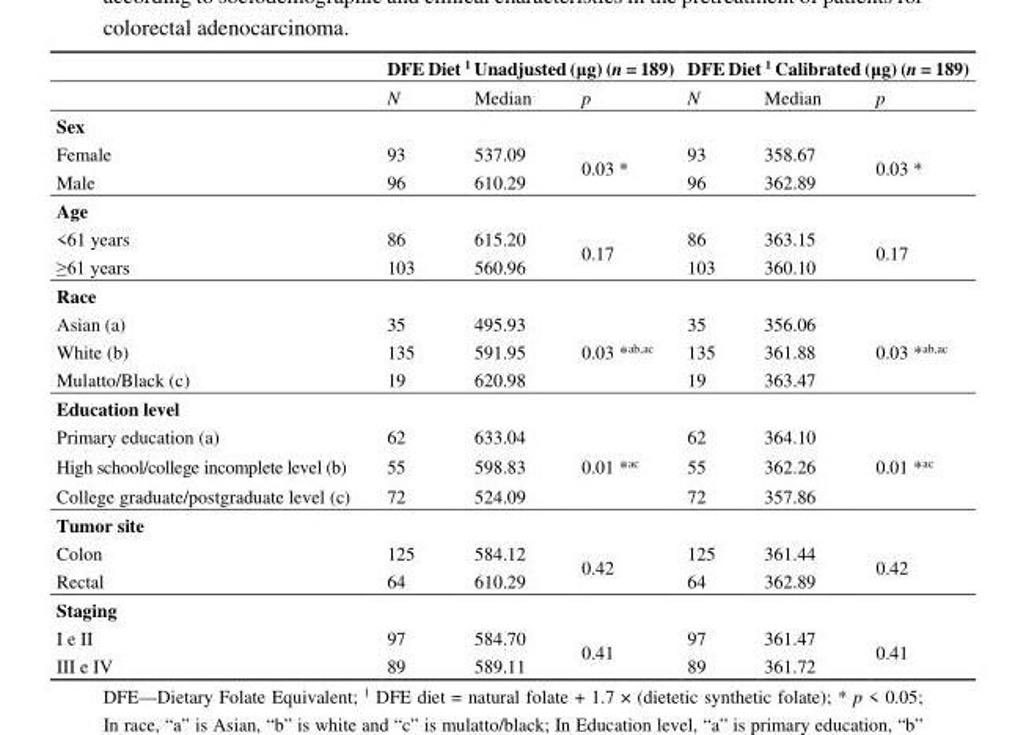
<table><thead><tr><td rowspan="2"></td><td colspan="3">DFE Diet <sup>1</sup> Unadjusted (μg) (n = 189)</td><td colspan="3">DFE Diet <sup>1</sup> Calibrated (μg) (n = 189)</td></tr><tr><td>N</td><td>Median</td><td>p</td><td>N</td><td>Median</td><td>p</td></tr></thead><tbody><tr><td colspan="7">Sex</td></tr><tr><td>Female</td><td>93</td><td>537.09</td><td rowspan="2">0.03 *</td><td>93</td><td>358.67</td><td rowspan="2">0.03 *</td></tr><tr><td>Male</td><td>96</td><td>610.29</td><td>96</td><td>362.89</td></tr><tr><td colspan="7">Age</td></tr><tr><td>&lt;61 years</td><td>86</td><td>615.20</td><td rowspan="2">0.17</td><td>86</td><td>363.15</td><td rowspan="2">0.17</td></tr><tr><td>≥61 years</td><td>103</td><td>560.96</td><td>103</td><td>360.10</td></tr><tr><td colspan="7">Race</td></tr><tr><td>Asian (a)</td><td>35</td><td>495.93</td><td rowspan="3">0.03 *<sup>ab,ac</sup></td><td>35</td><td>356.06</td><td rowspan="3">0.03 *<sup>ab,ac</sup></td></tr><tr><td>White (b)</td><td>135</td><td>591.95</td><td>135</td><td>361.88</td></tr><tr><td>Mulatto/Black (c)</td><td>19</td><td>620.98</td><td>19</td><td>363.47</td></tr><tr><td colspan="7">Education level</td></tr><tr><td>Primary education (a)</td><td>62</td><td>633.04</td><td rowspan="3">0.01 *<sup>ac</sup></td><td>62</td><td>364.10</td><td rowspan="3">0.01 *<sup>ac</sup></td></tr><tr><td>High school/college incomplete level (b)</td><td>55</td><td>598.83</td><td>55</td><td>362.26</td></tr><tr><td>College graduate/postgraduate level (c)</td><td>72</td><td>524.09</td><td>72</td><td>357.86</td></tr><tr><td colspan="7">Tumor site</td></tr><tr><td>Colon</td><td>125</td><td>584.12</td><td rowspan="2">0.42</td><td>125</td><td>361.44</td><td rowspan="2">0.42</td></tr><tr><td>Rectal</td><td>64</td><td>610.29</td><td>64</td><td>362.89</td></tr><tr><td colspan="7">Staging</td></tr><tr><td>I e II</td><td>97</td><td>584.70</td><td rowspan="2">0.41</td><td>97</td><td>361.47</td><td rowspan="2">0.41</td></tr><tr><td>III e IV</td><td>89</td><td>589.11</td><td>89</td><td>361.72</td></tr></tbody></table>